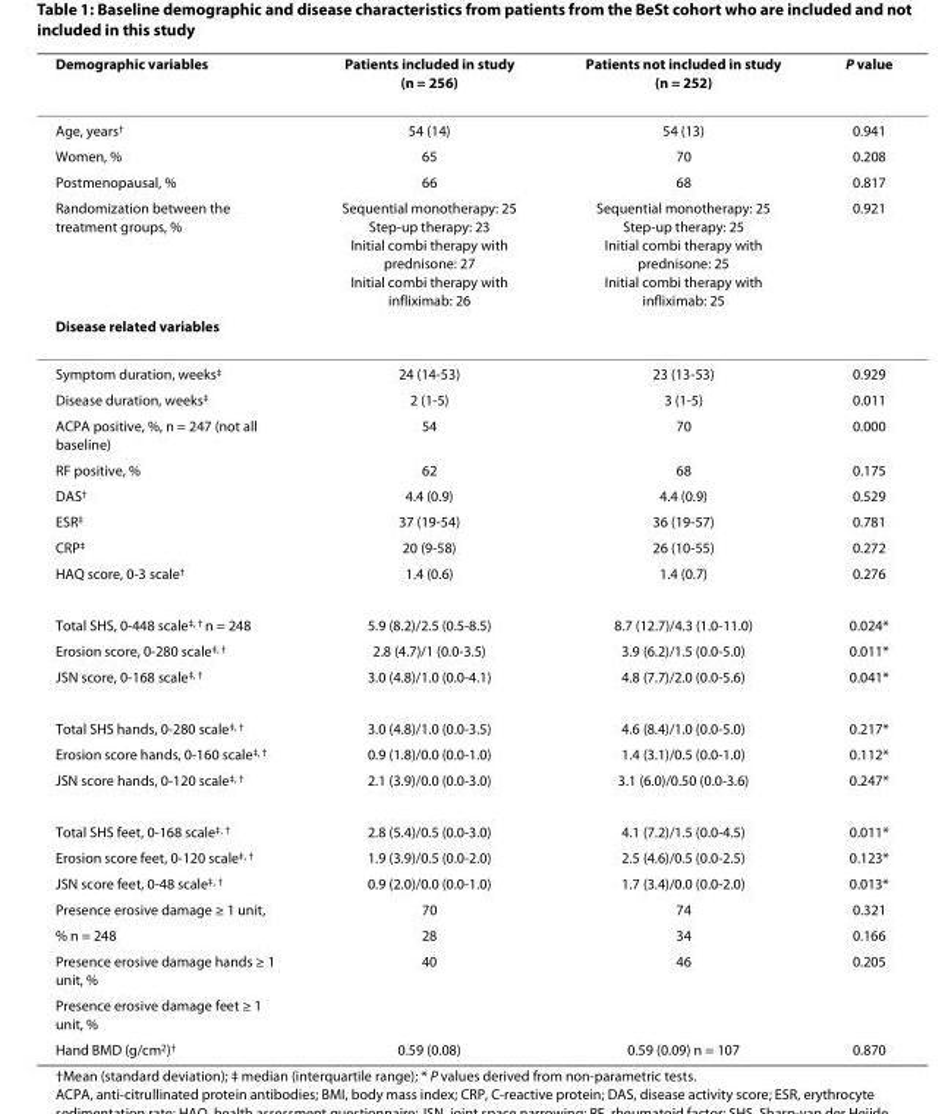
<table><thead><tr><td>Demographic variables</td><td>Patients included in study (n = 256)</td><td>Patients not included in study (n = 252)</td><td>P value</td></tr></thead><tbody><tr><td>Age, years<sup>†</sup></td><td>54 (14)</td><td>54 (13)</td><td>0.941</td></tr><tr><td>Women, %</td><td>65</td><td>70</td><td>0.208</td></tr><tr><td>Postmenopausal, %</td><td>66</td><td>68</td><td>0.817</td></tr><tr><td>Randomization between the treatment groups, %</td><td>Sequential monotherapy: 25 Step-up therapy: 23 Initial combi therapy with prednisone: 27 Initial combi therapy with infliximab: 26</td><td>Sequential monotherapy: 25 Step-up therapy: 25 Initial combi therapy with prednisone: 25 Initial combi therapy with infliximab: 25</td><td>0.921</td></tr><tr><td colspan="4">Disease related variables</td></tr><tr><td>Symptom duration, weeks<sup>‡</sup></td><td>24 (14-53)</td><td>23 (13-53)</td><td>0.929</td></tr><tr><td>Disease duration, weeks<sup>‡</sup></td><td>2 (1-5)</td><td>3 (1-5)</td><td>0.011</td></tr><tr><td>ACPA positive, %, n = 247 (not all baseline)</td><td>54</td><td>70</td><td>0.000</td></tr><tr><td>RF positive, %</td><td>62</td><td>68</td><td>0.175</td></tr><tr><td>DAS<sup>†</sup></td><td>4.4 (0.9)</td><td>4.4 (0.9)</td><td>0.529</td></tr><tr><td>ESR<sup>‡</sup></td><td>37 (19-54)</td><td>36 (19-57)</td><td>0.781</td></tr><tr><td>CRP<sup>‡</sup></td><td>20 (9-58)</td><td>26 (10-55)</td><td>0.272</td></tr><tr><td>HAQ score, 0-3 scale<sup>†</sup></td><td>1.4 (0.6)</td><td>1.4 (0.7)</td><td>0.276</td></tr><tr><td>Total SHS, 0-448 scale<sup>‡, †</sup> n = 248</td><td>5.9 (8.2)/2.5 (0.5-8.5)</td><td>8.7 (12.7)/4.3 (1.0-11.0)</td><td>0.024*</td></tr><tr><td>Erosion score, 0-280 scale<sup>‡, †</sup></td><td>2.8 (4.7)/1 (0.0-3.5)</td><td>3.9 (6.2)/1.5 (0.0-5.0)</td><td>0.011*</td></tr><tr><td>JSN score, 0-168 scale<sup>‡, †</sup></td><td>3.0 (4.8)/1.0 (0.0-4.1)</td><td>4.8 (7.7)/2.0 (0.0-5.6)</td><td>0.041*</td></tr><tr><td>Total SHS hands, 0-280 scale<sup>‡, †</sup></td><td>3.0 (4.8)/1.0 (0.0-3.5)</td><td>4.6 (8.4)/1.0 (0.0-5.0)</td><td>0.217*</td></tr><tr><td>Erosion score hands, 0-160 scale<sup>‡, †</sup></td><td>0.9 (1.8)/0.0 (0.0-1.0)</td><td>1.4 (3.1)/0.5 (0.0-1.0)</td><td>0.112*</td></tr><tr><td>JSN score hands, 0-120 scale<sup>‡, †</sup></td><td>2.1 (3.9)/0.0 (0.0-3.0)</td><td>3.1 (6.0)/0.50 (0.0-3.6)</td><td>0.247*</td></tr><tr><td>Total SHS feet, 0-168 scale<sup>‡, †</sup></td><td>2.8 (5.4)/0.5 (0.0-3.0)</td><td>4.1 (7.2)/1.5 (0.0-4.5)</td><td>0.011*</td></tr><tr><td>Erosion score feet, 0-120 scale<sup>‡, †</sup></td><td>1.9 (3.9)/0.5 (0.0-2.0)</td><td>2.5 (4.6)/0.5 (0.0-2.5)</td><td>0.123*</td></tr><tr><td>JSN score feet, 0-48 scale<sup>‡, †</sup></td><td>0.9 (2.0)/0.0 (0.0-1.0)</td><td>1.7 (3.4)/0.0 (0.0-2.0)</td><td>0.013*</td></tr><tr><td>Presence erosive damage ≥ 1 unit,</td><td>70</td><td>74</td><td>0.321</td></tr><tr><td>% n = 248</td><td>28</td><td>34</td><td>0.166</td></tr><tr><td>Presence erosive damage hands ≥ 1 unit, %</td><td>40</td><td>46</td><td>0.205</td></tr><tr><td colspan="4">Presence erosive damage feet ≥ 1 unit, %</td></tr><tr><td>Hand BMD (g/cm<sup>2</sup>)<sup>†</sup></td><td>0.59 (0.08)</td><td>0.59 (0.09) n = 107</td><td>0.870</td></tr></tbody></table>